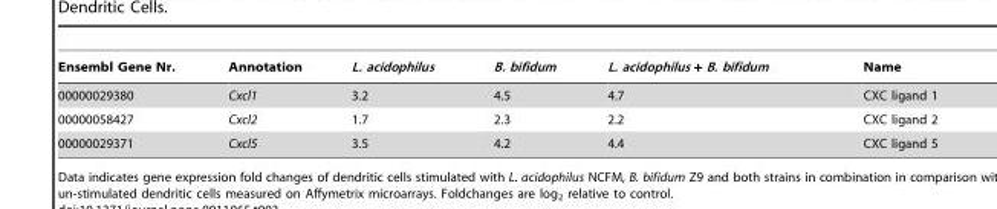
<table><thead><tr><td>Ensembl Gene Nr.</td><td>Annotation</td><td>L. acidophilus</td><td>B. bifidum</td><td>L. acidophilus + B. bifidum</td><td>Name</td></tr></thead><tbody><tr><td>00000029380</td><td>Cxcl1</td><td>3.2</td><td>4.5</td><td>4.7</td><td>CXC ligand 1</td></tr><tr><td>00000058427</td><td>Cxcl2</td><td>1.7</td><td>2.3</td><td>2.2</td><td>CXC ligand 2</td></tr><tr><td>00000029371</td><td>Cxcl5</td><td>3.5</td><td>4.2</td><td>4.4</td><td>CXC ligand 5</td></tr></tbody></table>